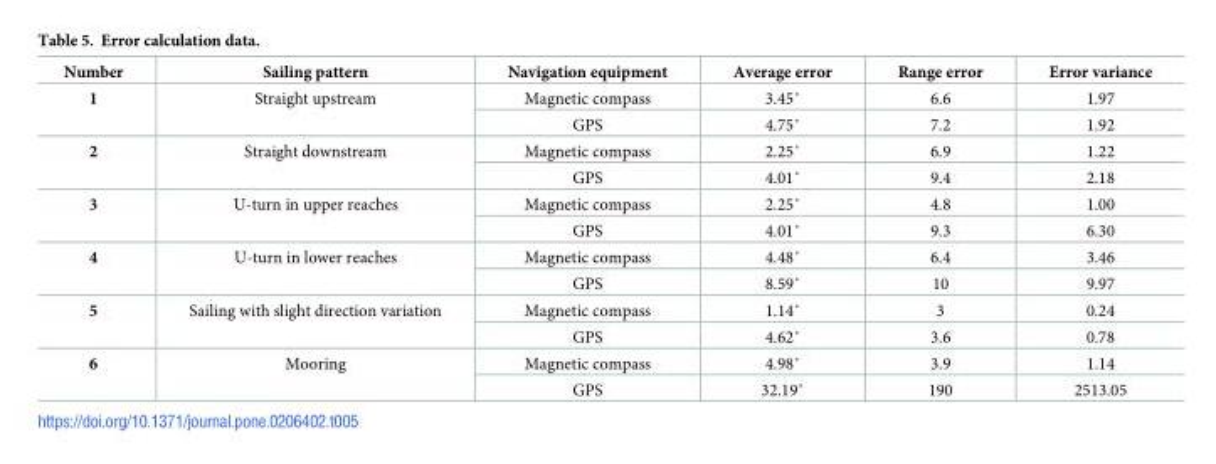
<table><thead><tr><td>Number</td><td>Sailing pattern</td><td>Navigation equipment</td><td>Average error</td><td>Range error</td><td>Error variance</td></tr></thead><tbody><tr><td rowspan="2">1</td><td rowspan="2">Straight upstream</td><td>Magnetic compass</td><td>3.45˚</td><td>6.6</td><td>1.97</td></tr><tr><td>GPS</td><td>4.75˚</td><td>7.2</td><td>1.92</td></tr><tr><td rowspan="2">2</td><td rowspan="2">Straight downstream</td><td>Magnetic compass</td><td>2.25˚</td><td>6.9</td><td>1.22</td></tr><tr><td>GPS</td><td>4.01˚</td><td>9.4</td><td>2.18</td></tr><tr><td rowspan="2">3</td><td rowspan="2">U-turn in upper reaches</td><td>Magnetic compass</td><td>2.25˚</td><td>4.8</td><td>1.00</td></tr><tr><td>GPS</td><td>4.01˚</td><td>9.3</td><td>6.30</td></tr><tr><td rowspan="2">4</td><td rowspan="2">U-turn in lower reaches</td><td>Magnetic compass</td><td>4.48˚</td><td>6.4</td><td>3.46</td></tr><tr><td>GPS</td><td>8.59˚</td><td>10</td><td>9.97</td></tr><tr><td rowspan="2">5</td><td rowspan="2">Sailing with slight direction variation</td><td>Magnetic compass</td><td>1.14˚</td><td>3</td><td>0.24</td></tr><tr><td>GPS</td><td>4.62˚</td><td>3.6</td><td>0.78</td></tr><tr><td rowspan="2">6</td><td rowspan="2">Mooring</td><td>Magnetic compass</td><td>4.98˚</td><td>3.9</td><td>1.14</td></tr><tr><td>GPS</td><td>32.19˚</td><td>190</td><td>2513.05</td></tr></tbody></table>